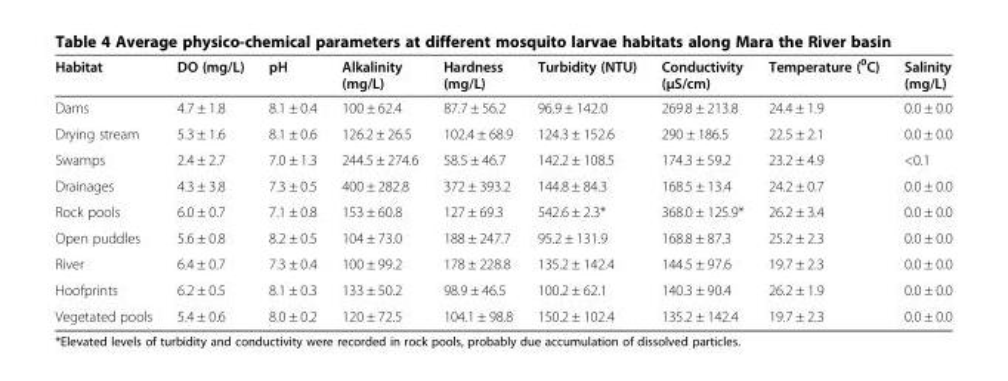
<table><thead><tr><td>Habitat</td><td>DO (mg/L)</td><td>pH</td><td>Alkalinity (mg/L)</td><td>Hardness (mg/L)</td><td>Turbidity (NTU)</td><td>Conductivity (μS/cm)</td><td>Temperature (<sup>0</sup>C)</td><td>Salinity (mg/L)</td></tr></thead><tbody><tr><td>Dams</td><td>4.7 ± 1.8</td><td>8.1 ± 0.4</td><td>100 ± 62.4</td><td>87.7 ± 56.2</td><td>96.9 ± 142.0</td><td>269.8 ± 213.8</td><td>24.4 ± 1.9</td><td>0.0 ± 0.0</td></tr><tr><td>Drying stream</td><td>5.3 ± 1.6</td><td>8.1 ± 0.6</td><td>126.2 ± 26.5</td><td>102.4 ± 68.9</td><td>124.3 ± 152.6</td><td>290 ± 186.5</td><td>22.5 ± 2.1</td><td>0.0 ± 0.0</td></tr><tr><td>Swamps</td><td>2.4 ± 2.7</td><td>7.0 ± 1.3</td><td>244.5 ± 274.6</td><td>58.5 ± 46.7</td><td>142.2 ± 108.5</td><td>174.3 ± 59.2</td><td>23.2 ± 4.9</td><td>&lt;0.1</td></tr><tr><td>Drainages</td><td>4.3 ± 3.8</td><td>7.3 ± 0.5</td><td>400 ± 282.8</td><td>372 ± 393.2</td><td>144.8 ± 84.3</td><td>168.5 ± 13.4</td><td>24.2 ± 0.7</td><td>0.0 ± 0.0</td></tr><tr><td>Rock pools</td><td>6.0 ± 0.7</td><td>7.1 ± 0.8</td><td>153 ± 60.8</td><td>127 ± 69.3</td><td>542.6 ± 2.3*</td><td>368.0 ± 125.9*</td><td>26.2 ± 3.4</td><td>0.0 ± 0.0</td></tr><tr><td>Open puddles</td><td>5.6 ± 0.8</td><td>8.2 ± 0.5</td><td>104 ± 73.0</td><td>188 ± 247.7</td><td>95.2 ± 131.9</td><td>168.8 ± 87.3</td><td>25.2 ± 2.3</td><td>0.0 ± 0.0</td></tr><tr><td>River</td><td>6.4 ± 0.7</td><td>7.3 ± 0.4</td><td>100 ± 99.2</td><td>178 ± 228.8</td><td>135.2 ± 142.4</td><td>144.5 ± 97.6</td><td>19.7 ± 2.3</td><td>0.0 ± 0.0</td></tr><tr><td>Hoofprints</td><td>6.2 ± 0.5</td><td>8.1 ± 0.3</td><td>133 ± 50.2</td><td>98.9 ± 46.5</td><td>100.2 ± 62.1</td><td>140.3 ± 90.4</td><td>26.2 ± 1.9</td><td>0.0 ± 0.0</td></tr><tr><td>Vegetated pools</td><td>5.4 ± 0.6</td><td>8.0 ± 0.2</td><td>120 ± 72.5</td><td>104.1 ± 98.8</td><td>150.2 ± 102.4</td><td>135.2 ± 142.4</td><td>19.7 ± 2.3</td><td>0.0 ± 0.0</td></tr></tbody></table>